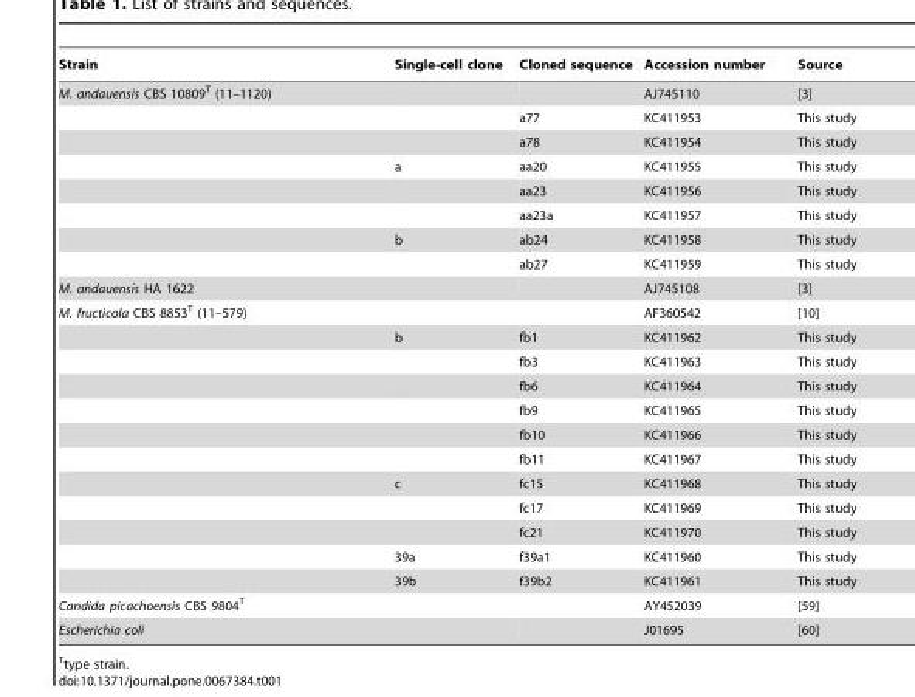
<table><thead><tr><td>Strain</td><td>Single-cell clone</td><td>Cloned sequence</td><td>Accession number</td><td>Source</td></tr></thead><tbody><tr><td rowspan="8">M. andauensis CBS 10809<sup>T</sup> (11–1120)</td><td></td><td></td><td>AJ745110</td><td>[3]</td></tr><tr><td></td><td>a77</td><td>KC411953</td><td>This study</td></tr><tr><td></td><td>a78</td><td>KC411954</td><td>This study</td></tr><tr><td>a</td><td>aa20</td><td>KC411955</td><td>This study</td></tr><tr><td></td><td>aa23</td><td>KC411956</td><td>This study</td></tr><tr><td></td><td>aa23a</td><td>KC411957</td><td>This study</td></tr><tr><td>b</td><td>ab24</td><td>KC411958</td><td>This study</td></tr><tr><td></td><td>ab27</td><td>KC411959</td><td>This study</td></tr><tr><td>M. andauensis HA 1622</td><td></td><td></td><td>AJ745108</td><td>[3]</td></tr><tr><td rowspan="12">M. fructicola CBS 8853<sup>T</sup> (11–579)</td><td></td><td></td><td>AF360542</td><td>[10]</td></tr><tr><td>b</td><td>fb1</td><td>KC411962</td><td>This study</td></tr><tr><td></td><td>fb3</td><td>KC411963</td><td>This study</td></tr><tr><td></td><td>fb6</td><td>KC411964</td><td>This study</td></tr><tr><td></td><td>fb9</td><td>KC411965</td><td>This study</td></tr><tr><td></td><td>fb10</td><td>KC411966</td><td>This study</td></tr><tr><td></td><td>fb11</td><td>KC411967</td><td>This study</td></tr><tr><td>c</td><td>fc15</td><td>KC411968</td><td>This study</td></tr><tr><td></td><td>fc17</td><td>KC411969</td><td>This study</td></tr><tr><td></td><td>fc21</td><td>KC411970</td><td>This study</td></tr><tr><td>39a</td><td>f39a1</td><td>KC411960</td><td>This study</td></tr><tr><td>39b</td><td>f39b2</td><td>KC411961</td><td>This study</td></tr><tr><td>Candida picachoensis CBS 9804<sup>T</sup></td><td></td><td></td><td>AY452039</td><td>[59]</td></tr><tr><td>Escherichia coli</td><td></td><td></td><td>J01695</td><td>[60]</td></tr></tbody></table>